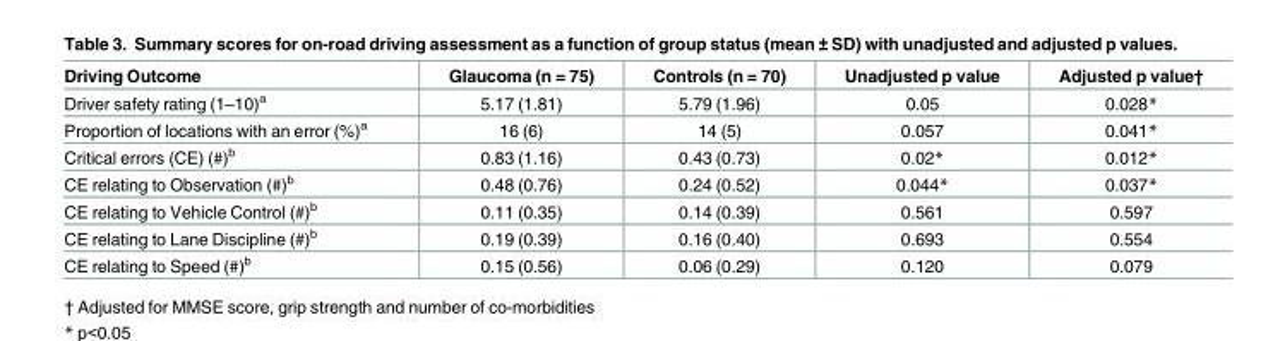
<table><thead><tr><td>Driving Outcome</td><td>Glaucoma (n = 75)</td><td>Controls (n = 70)</td><td>Unadjusted p value</td><td>Adjusted p value†</td></tr></thead><tbody><tr><td>Driver safety rating (1–10)<sup>a</sup></td><td>5.17 (1.81)</td><td>5.79 (1.96)</td><td>0.05</td><td>0.028*</td></tr><tr><td>Proportion of locations with an error (%)<sup>a</sup></td><td>16 (6)</td><td>14 (5)</td><td>0.057</td><td>0.041*</td></tr><tr><td>Critical errors (CE) (#)<sup>b</sup></td><td>0.83 (1.16)</td><td>0.43 (0.73)</td><td>0.02*</td><td>0.012*</td></tr><tr><td>CE relating to Observation (#)<sup>b</sup></td><td>0.48 (0.76)</td><td>0.24 (0.52)</td><td>0.044*</td><td>0.037*</td></tr><tr><td>CE relating to Vehicle Control (#)<sup>b</sup></td><td>0.11 (0.35)</td><td>0.14 (0.39)</td><td>0.561</td><td>0.597</td></tr><tr><td>CE relating to Lane Discipline (#)<sup>b</sup></td><td>0.19 (0.39)</td><td>0.16 (0.40)</td><td>0.693</td><td>0.554</td></tr><tr><td>CE relating to Speed (#)<sup>b</sup></td><td>0.15 (0.56)</td><td>0.06 (0.29)</td><td>0.120</td><td>0.079</td></tr></tbody></table>